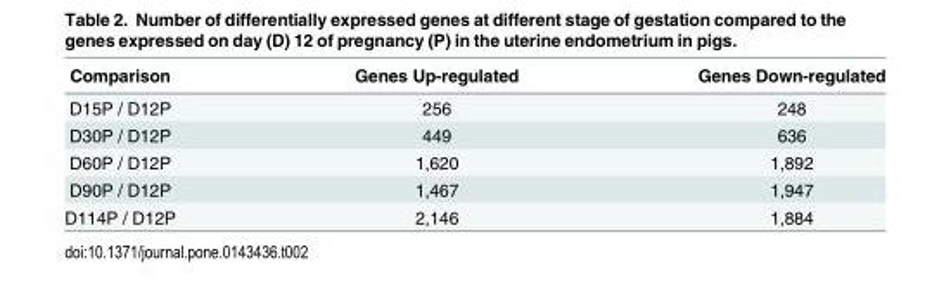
<table><thead><tr><td>Comparison</td><td>Genes Up-regulated</td><td>Genes Down-regulated</td></tr></thead><tbody><tr><td>D15P / D12P</td><td>256</td><td>248</td></tr><tr><td>D30P / D12P</td><td>449</td><td>636</td></tr><tr><td>D60P / D12P</td><td>1,620</td><td>1,892</td></tr><tr><td>D90P / D12P</td><td>1,467</td><td>1,947</td></tr><tr><td>D114P / D12P</td><td>2,146</td><td>1,884</td></tr></tbody></table>